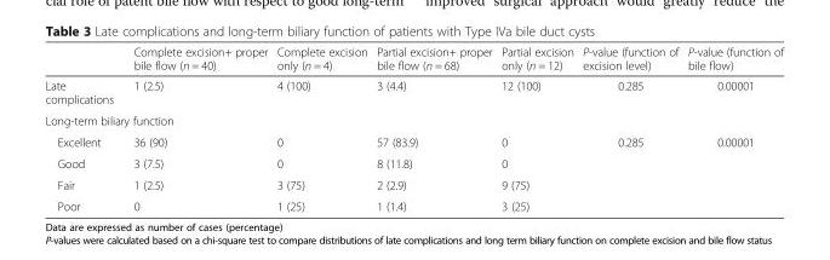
<table><thead><tr><td></td><td>Complete excision+ proper bile flow (n = 40)</td><td>Complete excision only (n = 4)</td><td>Partial excision+ proper bile flow (n = 68)</td><td>Partial excision only (n = 12)</td><td>P-value (function of excision level)</td><td>P-value (function of bile flow)</td></tr></thead><tbody><tr><td>Late complications</td><td>1 (2.5)</td><td>4 (100)</td><td>3 (4.4)</td><td>12 (100)</td><td>0.285</td><td>0.00001</td></tr><tr><td colspan="7">Long-term biliary function</td></tr><tr><td>Excellent</td><td>36 (90)</td><td>0</td><td>57 (83.9)</td><td>0</td><td>0.285</td><td>0.00001</td></tr><tr><td>Good</td><td>3 (7.5)</td><td>0</td><td>8 (11.8)</td><td>0</td><td></td><td></td></tr><tr><td>Fair</td><td>1 (2.5)</td><td>3 (75)</td><td>2 (2.9)</td><td>9 (75)</td><td></td><td></td></tr><tr><td>Poor</td><td>0</td><td>1 (25)</td><td>1 (1.4)</td><td>3 (25)</td><td></td><td></td></tr></tbody></table>